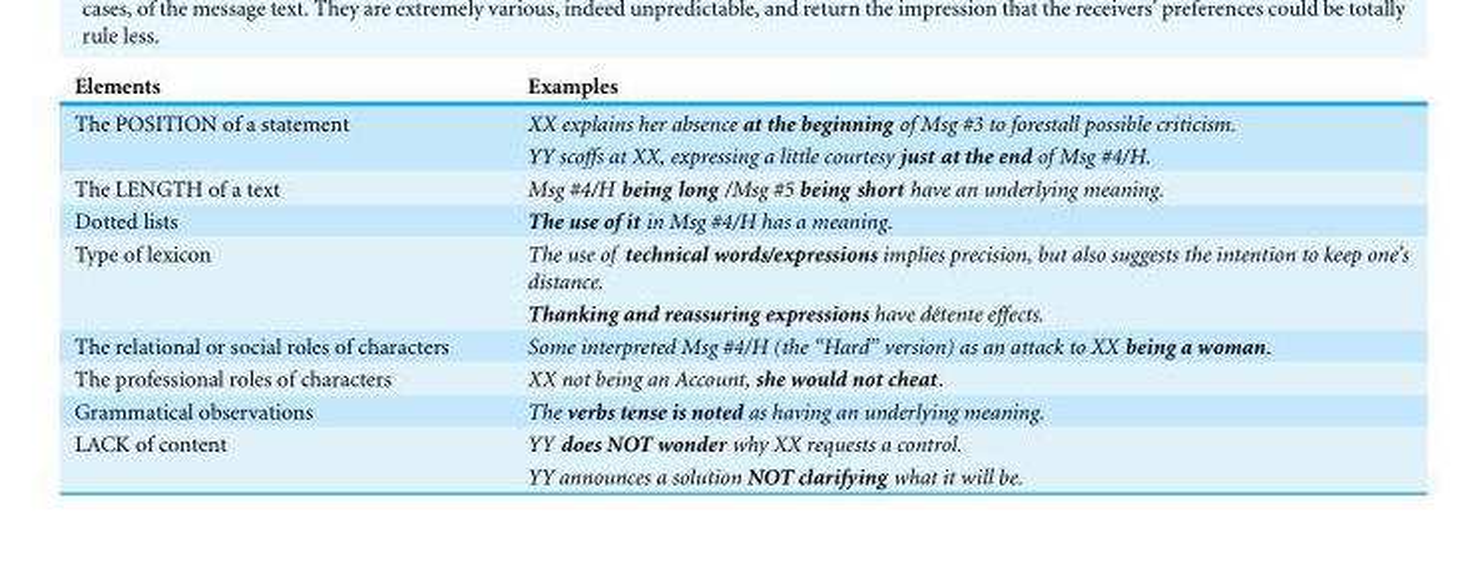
<table><thead><tr><td>Elements</td><td>Examples</td></tr></thead><tbody><tr><td rowspan="2">The POSITION of a statement</td><td>XX explains her absence at the beginning of Msg #3 to forestall possible criticism.</td></tr><tr><td>YY scoffs at XX, expressing a little courtesy just at the end of Msg #4/H.</td></tr><tr><td>The LENGTH of a text</td><td>Msg #4/H being long /Msg #5 being short have an underlying meaning.</td></tr><tr><td>Dotted lists</td><td>The use of it in Msg #4/H has a meaning.</td></tr><tr><td rowspan="2">Type of lexicon</td><td>The use of technical words/expressions implies precision, but also suggests the intention to keep one’s distance.</td></tr><tr><td>Thanking and reassuring expressions have d´etente effects.</td></tr><tr><td>The relational or social roles of characters</td><td>Some interpreted Msg #4/H (the “Hard” version) as an attack to XX being a woman.</td></tr><tr><td>The professional roles of characters</td><td>XX not being an Account, she would not cheat.</td></tr><tr><td>Grammatical observations</td><td>The verbs tense is noted as having an underlying meaning.</td></tr><tr><td rowspan="2">LACK of content</td><td>YY does NOT wonder why XX requests a control.</td></tr><tr><td>YY announces a solution NOT clarifying what it will be.</td></tr></tbody></table>